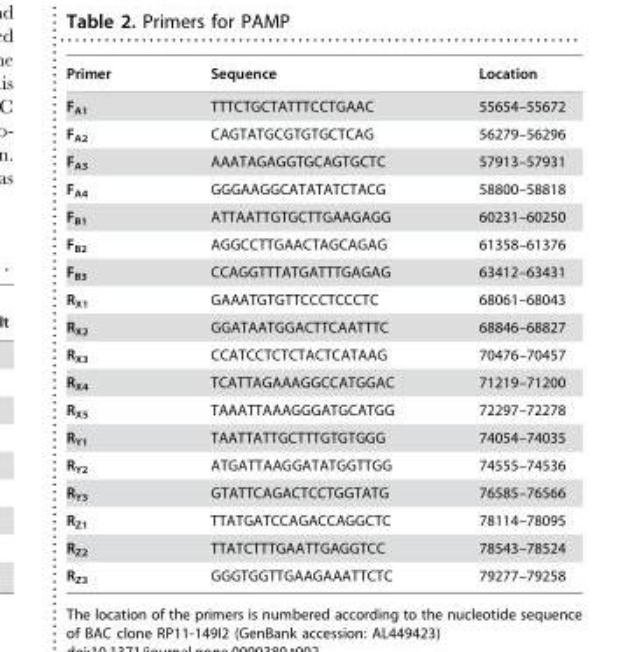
<table><thead><tr><td>Primer</td><td>Sequence</td><td>Location</td></tr></thead><tbody><tr><td>F<sub>A1</sub></td><td>TTTCTGCTATTTCCTGAAC</td><td>55654–55672</td></tr><tr><td>F<sub>A2</sub></td><td>CAGTATGCGTGTGCTCAG</td><td>56279–56296</td></tr><tr><td>F<sub>A3</sub></td><td>AAATAGAGGTGCAGTGCTC</td><td>57913–57931</td></tr><tr><td>F<sub>A4</sub></td><td>GGGAAGGCATATATCTACG</td><td>58800–58818</td></tr><tr><td>F<sub>B1</sub></td><td>ATTAATTGTGCTTGAAGAGG</td><td>60231–60250</td></tr><tr><td>F<sub>B2</sub></td><td>AGGCCTTGAACTAGCAGAG</td><td>61358–61376</td></tr><tr><td>F<sub>B3</sub></td><td>CCAGGTTTATGATTTGAGAG</td><td>63412–63431</td></tr><tr><td>R<sub>X1</sub></td><td>GAAATGTGTTCCCTCCCTC</td><td>68061–68043</td></tr><tr><td>R<sub>X2</sub></td><td>GGATAATGGACTTCAATTTC</td><td>68846–68827</td></tr><tr><td>R<sub>X3</sub></td><td>CCATCCTCTCTACTCATAAG</td><td>70476–70457</td></tr><tr><td>R<sub>X4</sub></td><td>TCATTAGAAAGGCCATGGAC</td><td>71219–71200</td></tr><tr><td>R<sub>X5</sub></td><td>TAAATTAAAGGGATGCATGG</td><td>72297–72278</td></tr><tr><td>R<sub>Y1</sub></td><td>TAATTATTGCTTTGTGTGGG</td><td>74054–74035</td></tr><tr><td>R<sub>Y2</sub></td><td>ATGATTAAGGATATGGTTGG</td><td>74555–74536</td></tr><tr><td>R<sub>Y3</sub></td><td>GTATTCAGACTCCTGGTATG</td><td>76585–76566</td></tr><tr><td>R<sub>Z1</sub></td><td>TTATGATCCAGACCAGGCTC</td><td>78114–78095</td></tr><tr><td>R<sub>Z2</sub></td><td>TTATCTTTGAATTGAGGTCC</td><td>78543–78524</td></tr><tr><td>R<sub>Z3</sub></td><td>GGGTGGTTGAAGAAATTCTC</td><td>79277–79258</td></tr></tbody></table>